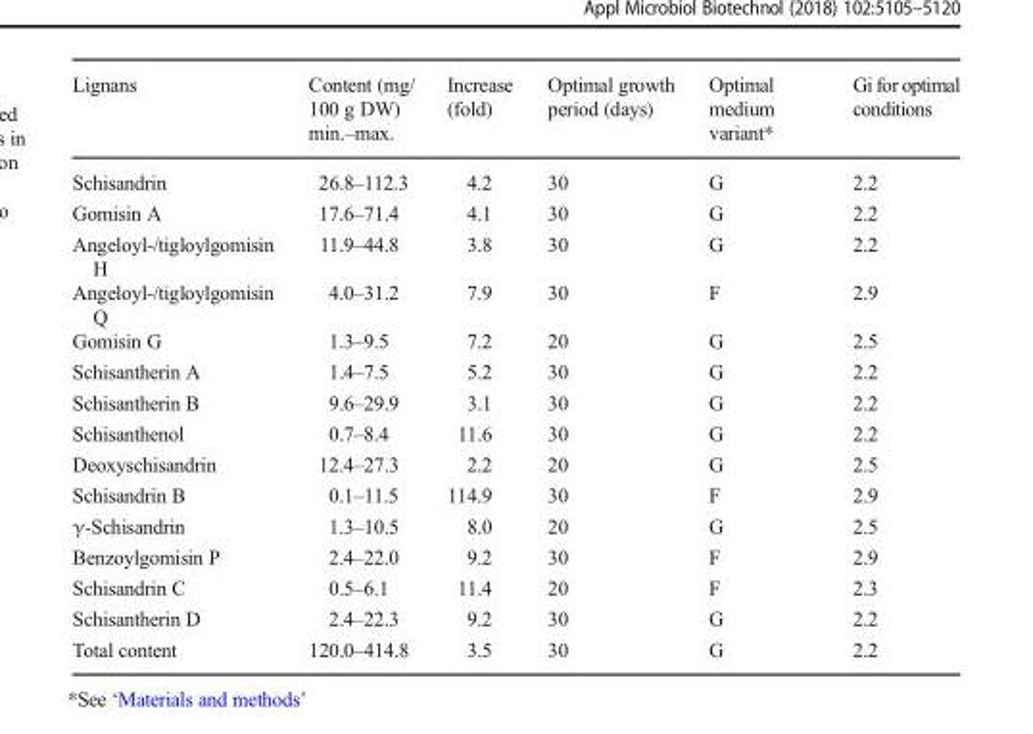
<table><thead><tr><td>Lignans</td><td>Content (mg/ 100 g DW) min.–max.</td><td>Increase (fold)</td><td>Optimal growth period (days)</td><td>Optimal medium variant*</td><td>Gi for optimal conditions</td></tr></thead><tbody><tr><td>Schisandrin</td><td>26.8–112.3</td><td>4.2</td><td>30</td><td>G</td><td>2.2</td></tr><tr><td>Gomisin A</td><td>17.6–71.4</td><td>4.1</td><td>30</td><td>G</td><td>2.2</td></tr><tr><td>Angeloyl-/tigloylgomisin H</td><td>11.9–44.8</td><td>3.8</td><td>30</td><td>G</td><td>2.2</td></tr><tr><td>Angeloyl-/tigloylgomisin Q</td><td>4.0–31.2</td><td>7.9</td><td>30</td><td>F</td><td>2.9</td></tr><tr><td>Gomisin G</td><td>1.3–9.5</td><td>7.2</td><td>20</td><td>G</td><td>2.5</td></tr><tr><td>Schisantherin A</td><td>1.4–7.5</td><td>5.2</td><td>30</td><td>G</td><td>2.2</td></tr><tr><td>Schisantherin B</td><td>9.6–29.9</td><td>3.1</td><td>30</td><td>G</td><td>2.2</td></tr><tr><td>Schisanthenol</td><td>0.7–8.4</td><td>11.6</td><td>30</td><td>G</td><td>2.2</td></tr><tr><td>Deoxyschisandrin</td><td>12.4–27.3</td><td>2.2</td><td>20</td><td>G</td><td>2.5</td></tr><tr><td>Schisandrin B</td><td>0.1–11.5</td><td>114.9</td><td>30</td><td>F</td><td>2.9</td></tr><tr><td>γ-Schisandrin</td><td>1.3–10.5</td><td>8.0</td><td>20</td><td>G</td><td>2.5</td></tr><tr><td>Benzoylgomisin P</td><td>2.4–22.0</td><td>9.2</td><td>30</td><td>F</td><td>2.9</td></tr><tr><td>Schisandrin C</td><td>0.5–6.1</td><td>11.4</td><td>20</td><td>F</td><td>2.3</td></tr><tr><td>Schisantherin D</td><td>2.4–22.3</td><td>9.2</td><td>30</td><td>G</td><td>2.2</td></tr><tr><td>Total content</td><td>120.0–414.8</td><td>3.5</td><td>30</td><td>G</td><td>2.2</td></tr></tbody></table>